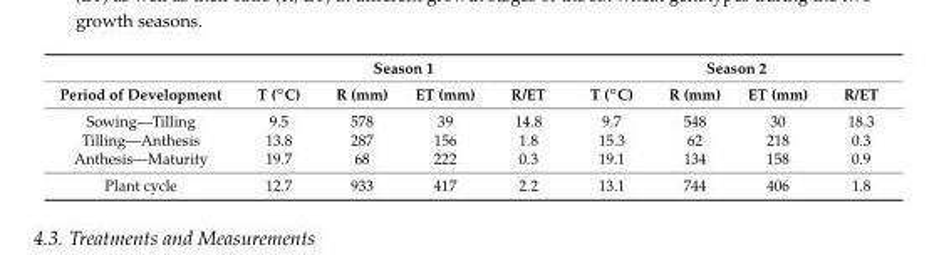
<table><thead><tr><td rowspan="2">Period of Development</td><td colspan="4">Season 1</td><td colspan="4">Season 2</td></tr><tr><td>T (◦C)</td><td>R (mm)</td><td>ET (mm)</td><td>R/ET</td><td>T (◦C)</td><td>R (mm)</td><td>ET (mm)</td><td>R/ET</td></tr></thead><tbody><tr><td>Sowing—Tilling</td><td>9.5</td><td>578</td><td>39</td><td>14.8</td><td>9.7</td><td>548</td><td>30</td><td>18.3</td></tr><tr><td>Tilling—Anthesis</td><td>13.8</td><td>287</td><td>156</td><td>1.8</td><td>15.3</td><td>62</td><td>218</td><td>0.3</td></tr><tr><td>Anthesis—Maturity</td><td>19.7</td><td>68</td><td>222</td><td>0.3</td><td>19.1</td><td>134</td><td>158</td><td>0.9</td></tr><tr><td>Plant cycle</td><td>12.7</td><td>933</td><td>417</td><td>2.2</td><td>13.1</td><td>744</td><td>406</td><td>1.8</td></tr></tbody></table>